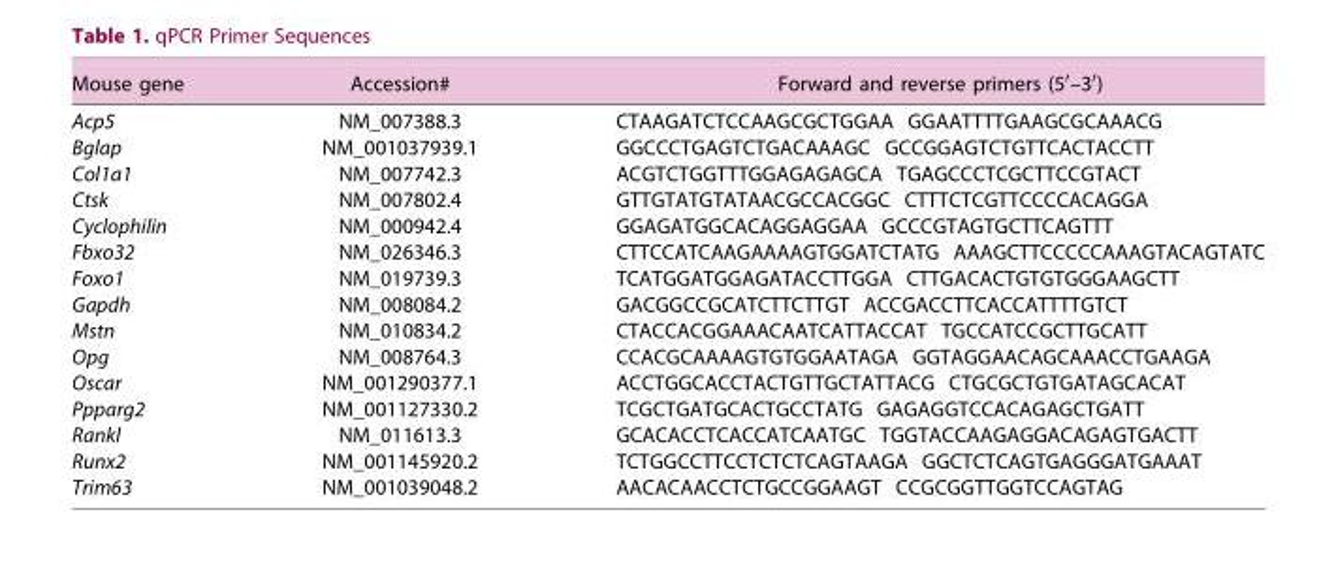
<table><thead><tr><td>Mouse gene</td><td>Accession#</td><td>Forward and reverse primers (5′–3′)</td></tr></thead><tbody><tr><td>Acp5</td><td>NM_007388.3</td><td>CTAAGATCTCCAAGCGCTGGAA GGAATTTTGAAGCGCAAACG</td></tr><tr><td>Bglap</td><td>NM_001037939.1</td><td>GGCCCTGAGTCTGACAAAGC GCCGGAGTCTGTTCACTACCTT</td></tr><tr><td>Col1a1</td><td>NM_007742.3</td><td>ACGTCTGGTTTGGAGAGAGCA TGAGCCCTCGCTTCCGTACT</td></tr><tr><td>Ctsk</td><td>NM_007802.4</td><td>GTTGTATGTATAACGCCACGGC CTTTCTCGTTCCCCACAGGA</td></tr><tr><td>Cyclophilin</td><td>NM_000942.4</td><td>GGAGATGGCACAGGAGGAA GCCCGTAGTGCTTCAGTTT</td></tr><tr><td>Fbxo32</td><td>NM_026346.3</td><td>CTTCCATCAAGAAAAGTGGATCTATG AAAGCTTCCCCCAAAGTACAGTATC</td></tr><tr><td>Foxo1</td><td>NM_019739.3</td><td>TCATGGATGGAGATACCTTGGA CTTGACACTGTGTGGGAAGCTT</td></tr><tr><td>Gapdh</td><td>NM_008084.2</td><td>GACGGCCGCATCTTCTTGT ACCGACCTTCACCATTTTGTCT</td></tr><tr><td>Mstn</td><td>NM_010834.2</td><td>CTACCACGGAAACAATCATTACCAT TGCCATCCGCTTGCATT</td></tr><tr><td>Opg</td><td>NM_008764.3</td><td>CCACGCAAAAGTGTGGAATAGA GGTAGGAACAGCAAACCTGAAGA</td></tr><tr><td>Oscar</td><td>NM_001290377.1</td><td>ACCTGGCACCTACTGTTGCTATTACG CTGCGCTGTGATAGCACAT</td></tr><tr><td>Ppparg2</td><td>NM_001127330.2</td><td>TCGCTGATGCACTGCCTATG GAGAGGTCCACAGAGCTGATT</td></tr><tr><td>Rankl</td><td>NM_011613.3</td><td>GCACACCTCACCATCAATGC TGGTACCAAGAGGACAGAGTGACTT</td></tr><tr><td>Runx2</td><td>NM_001145920.2</td><td>TCTGGCCTTCCTCTCTCAGTAAGA GGCTCTCAGTGAGGGATGAAAT</td></tr><tr><td>Trim63</td><td>NM_001039048.2</td><td>AACACAACCTCTGCCGGAAGT CCGCGGTTGGTCCAGTAG</td></tr></tbody></table>